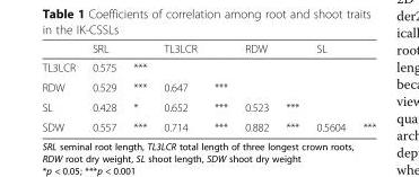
<table><thead><tr><td></td><td>SRL</td><td></td><td>TL3LCR</td><td></td><td>RDW</td><td></td><td>SL</td><td></td></tr></thead><tbody><tr><td>TL3LCR</td><td>0.575</td><td>***</td><td></td><td></td><td></td><td></td><td></td><td></td></tr><tr><td>RDW</td><td>0.529</td><td>***</td><td>0.647</td><td>***</td><td></td><td></td><td></td><td></td></tr><tr><td>SL</td><td>0.428</td><td>*</td><td>0.652</td><td>***</td><td>0.523</td><td>***</td><td></td><td></td></tr><tr><td>SDW</td><td>0.557</td><td>***</td><td>0.714</td><td>***</td><td>0.882</td><td>***</td><td>0.5604</td><td>***</td></tr></tbody></table>